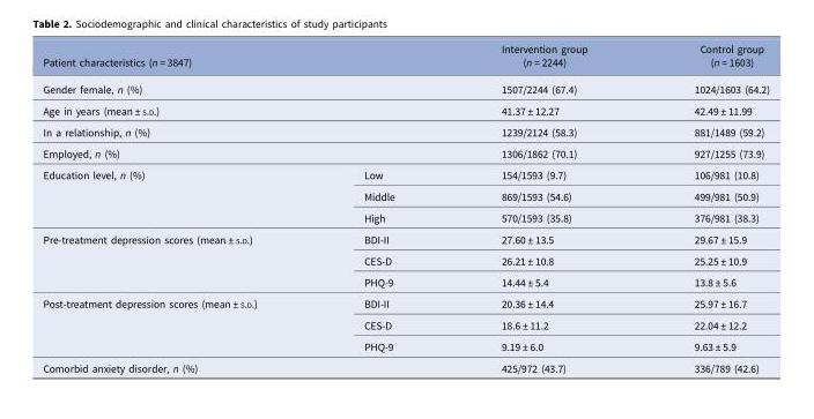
<table><thead><tr><td colspan="2">Patient characteristics (n = 3847)</td><td>Intervention group (n = 2244)</td><td>Control group (n = 1603)</td></tr></thead><tbody><tr><td colspan="2">Gender female, n (%)</td><td>1507/2244 (67.4)</td><td>1024/1603 (64.2)</td></tr><tr><td colspan="2">Age in years (mean ± S.D.)</td><td>41.37 ± 12.27</td><td>42.49 ± 11.99</td></tr><tr><td colspan="2">In a relationship, n (%)</td><td>1239/2124 (58.3)</td><td>881/1489 (59.2)</td></tr><tr><td colspan="2">Employed, n (%)</td><td>1306/1862 (70.1)</td><td>927/1255 (73.9)</td></tr><tr><td rowspan="3">Education level, n (%)</td><td>Low</td><td>154/1593 (9.7)</td><td>106/981 (10.8)</td></tr><tr><td>Middle</td><td>869/1593 (54.6)</td><td>499/981 (50.9)</td></tr><tr><td>High</td><td>570/1593 (35.8)</td><td>376/981 (38.3)</td></tr><tr><td rowspan="3">Pre-treatment depression scores (mean ± S.D.)</td><td>BDI-II</td><td>27.60 ± 13.5</td><td>29.67 ± 15.9</td></tr><tr><td>CES-D</td><td>26.21 ± 10.8</td><td>25.25 ± 10.9</td></tr><tr><td>PHQ-9</td><td>14.44 ± 5.4</td><td>13.8 ± 5.6</td></tr><tr><td rowspan="3">Post-treatment depression scores (mean ± S.D.)</td><td>BDI-II</td><td>20.36 ± 14.4</td><td>25.97 ± 16.7</td></tr><tr><td>CES-D</td><td>18.6 ± 11.2</td><td>22.04 ± 12.2</td></tr><tr><td>PHQ-9</td><td>9.19 ± 6.0</td><td>9.63 ± 5.9</td></tr><tr><td colspan="2">Comorbid anxiety disorder, n (%)</td><td>425/972 (43.7)</td><td>336/789 (42.6)</td></tr></tbody></table>